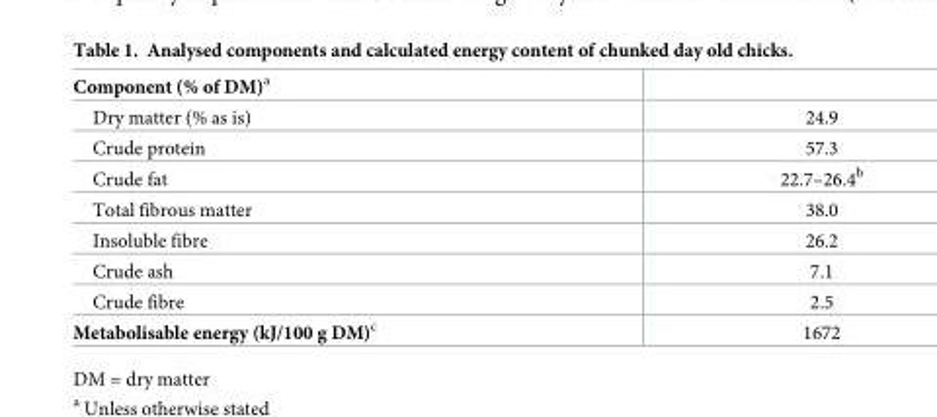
<table><tbody><tr><td colspan="2">Component (% of DM)<sup>a</sup></td></tr><tr><td>Dry matter (% as is)</td><td>24.9</td></tr><tr><td>Crude protein</td><td>57.3</td></tr><tr><td>Crude fat</td><td>22.7–26.4<sup>b</sup></td></tr><tr><td>Total fibrous matter</td><td>38.0</td></tr><tr><td>Insoluble fibre</td><td>26.2</td></tr><tr><td>Crude ash</td><td>7.1</td></tr><tr><td>Crude fibre</td><td>2.5</td></tr><tr><td>Metabolisable energy (kJ/100 g DM)<sup>c</sup></td><td>1672</td></tr></tbody></table>